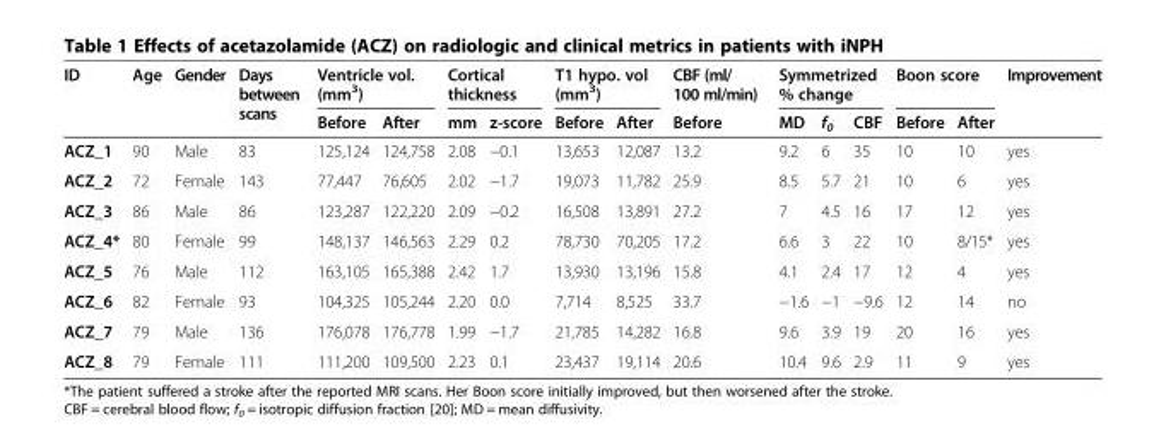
<table><thead><tr><td rowspan="2">ID</td><td rowspan="2">Age</td><td rowspan="2">Gender</td><td rowspan="2">Days between scans</td><td colspan="2">Ventricle vol. (mm<sup>3</sup>)</td><td colspan="2">Cortical thickness</td><td colspan="2">T1 hypo. vol (mm<sup>3</sup>)</td><td rowspan="2">CBF (ml/ 100 ml/min) Before</td><td colspan="3">Symmetrized % change</td><td colspan="2">Boon score</td><td rowspan="2">Improvement</td></tr><tr><td>Before</td><td>After</td><td>mm</td><td>z-score</td><td>Before</td><td>After</td><td>MD</td><td>f<sub>0</sub></td><td>CBF</td><td>Before</td><td>After</td></tr></thead><tbody><tr><td>ACZ_1</td><td>90</td><td>Male</td><td>83</td><td>125,124</td><td>124,758</td><td>2.08</td><td>−0.1</td><td>13,653</td><td>12,087</td><td>13.2</td><td>9.2</td><td>6</td><td>35</td><td>10</td><td>10</td><td>yes</td></tr><tr><td>ACZ_2</td><td>72</td><td>Female</td><td>143</td><td>77,447</td><td>76,605</td><td>2.02</td><td>−1.7</td><td>19,073</td><td>11,782</td><td>25.9</td><td>8.5</td><td>5.7</td><td>21</td><td>10</td><td>6</td><td>yes</td></tr><tr><td>ACZ_3</td><td>86</td><td>Male</td><td>86</td><td>123,287</td><td>122,220</td><td>2.09</td><td>−0.2</td><td>16,508</td><td>13,891</td><td>27.2</td><td>7</td><td>4.5</td><td>16</td><td>17</td><td>12</td><td>yes</td></tr><tr><td>ACZ_4*</td><td>80</td><td>Female</td><td>99</td><td>148,137</td><td>146,563</td><td>2.29</td><td>0.2</td><td>78,730</td><td>70,205</td><td>17.2</td><td>6.6</td><td>3</td><td>22</td><td>10</td><td>8/15*</td><td>yes</td></tr><tr><td>ACZ_5</td><td>76</td><td>Male</td><td>112</td><td>163,105</td><td>165,388</td><td>2.42</td><td>1.7</td><td>13,930</td><td>13,196</td><td>15.8</td><td>4.1</td><td>2.4</td><td>17</td><td>12</td><td>4</td><td>yes</td></tr><tr><td>ACZ_6</td><td>82</td><td>Female</td><td>93</td><td>104,325</td><td>105,244</td><td>2.20</td><td>0.0</td><td>7,714</td><td>8,525</td><td>33.7</td><td>−1.6</td><td>−1</td><td>−9.6</td><td>12</td><td>14</td><td>no</td></tr><tr><td>ACZ_7</td><td>79</td><td>Male</td><td>136</td><td>176,078</td><td>176,778</td><td>1.99</td><td>−1.7</td><td>21,785</td><td>14,282</td><td>16.8</td><td>9.6</td><td>3.9</td><td>19</td><td>20</td><td>16</td><td>yes</td></tr><tr><td>ACZ_8</td><td>79</td><td>Female</td><td>111</td><td>111,200</td><td>109,500</td><td>2.23</td><td>0.1</td><td>23,437</td><td>19,114</td><td>20.6</td><td>10.4</td><td>9.6</td><td>2.9</td><td>11</td><td>9</td><td>yes</td></tr></tbody></table>